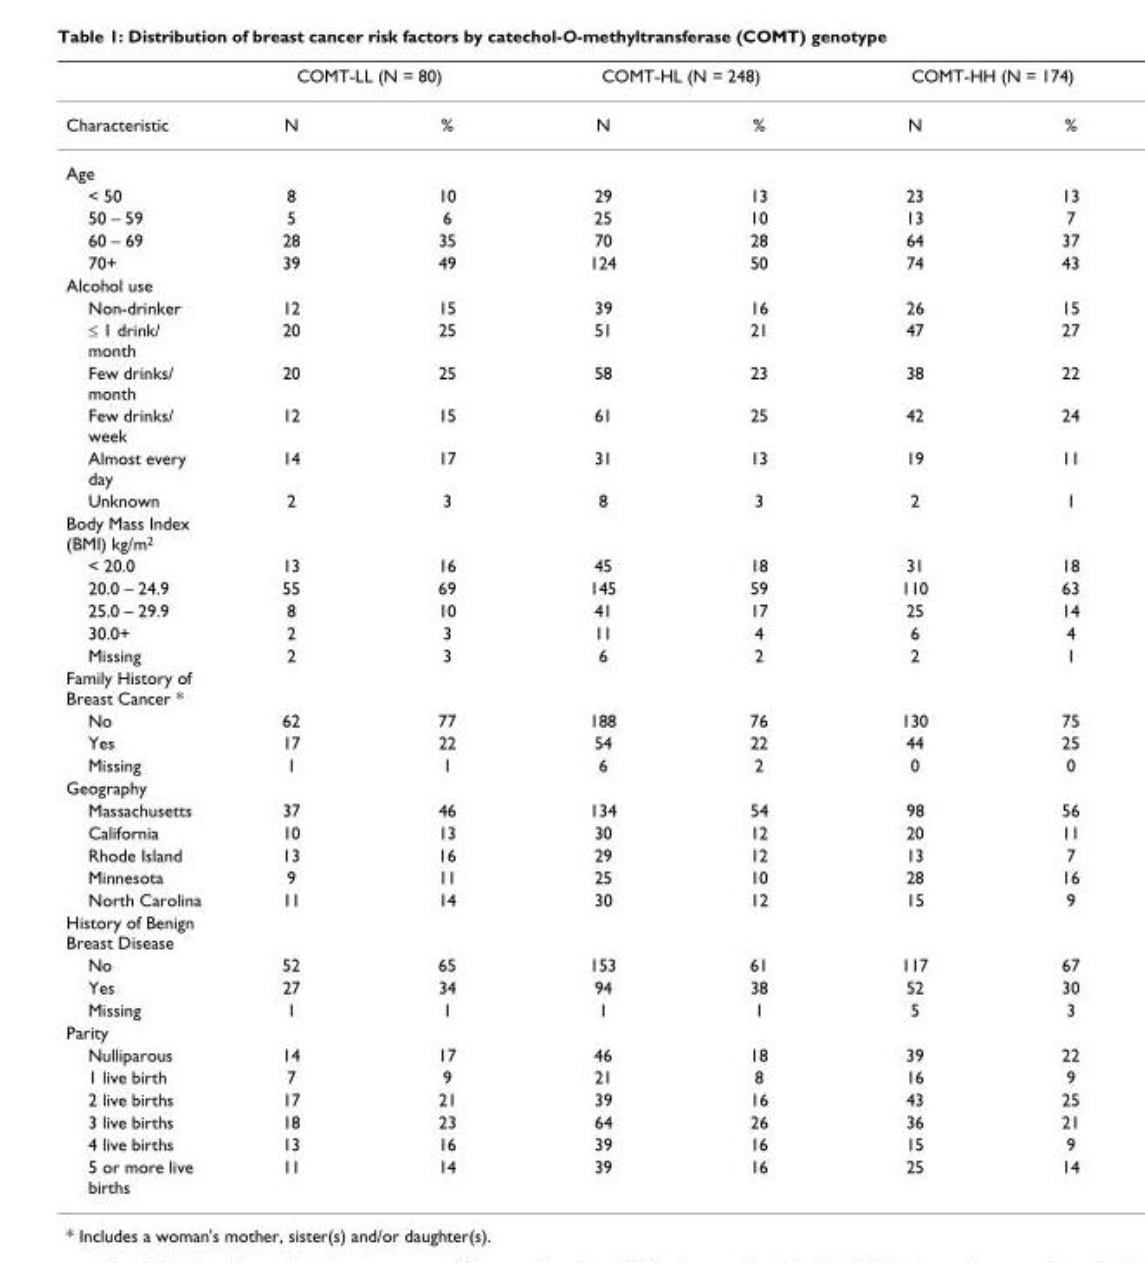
<table><thead><tr><td rowspan="2">Characteristic</td><td colspan="2">COMT-LL (N = 80)</td><td colspan="2">COMT-HL (N = 248)</td><td colspan="2">COMT-HH (N = 174)</td></tr><tr><td>N</td><td>%</td><td>N</td><td>%</td><td>N</td><td>%</td></tr></thead><tbody><tr><td colspan="7">Age</td></tr><tr><td>&lt; 50</td><td>8</td><td>10</td><td>29</td><td>13</td><td>23</td><td>13</td></tr><tr><td>50 – 59</td><td>5</td><td>6</td><td>25</td><td>10</td><td>13</td><td>7</td></tr><tr><td>60 – 69</td><td>28</td><td>35</td><td>70</td><td>28</td><td>64</td><td>37</td></tr><tr><td>70+</td><td>39</td><td>49</td><td>124</td><td>50</td><td>74</td><td>43</td></tr><tr><td colspan="7">Alcohol use</td></tr><tr><td>Non-drinker</td><td>12</td><td>15</td><td>39</td><td>16</td><td>26</td><td>15</td></tr><tr><td>≤ 1 drink/ month</td><td>20</td><td>25</td><td>51</td><td>21</td><td>47</td><td>27</td></tr><tr><td>Few drinks/ month</td><td>20</td><td>25</td><td>58</td><td>23</td><td>38</td><td>22</td></tr><tr><td>Few drinks/ week</td><td>12</td><td>15</td><td>61</td><td>25</td><td>42</td><td>24</td></tr><tr><td>Almost every day</td><td>14</td><td>17</td><td>31</td><td>13</td><td>19</td><td>11</td></tr><tr><td>Unknown</td><td>2</td><td>3</td><td>8</td><td>3</td><td>2</td><td>1</td></tr><tr><td colspan="7">Body Mass Index (BMI) kg/m<sup>2</sup></td></tr><tr><td>&lt; 20.0</td><td>13</td><td>16</td><td>45</td><td>18</td><td>31</td><td>18</td></tr><tr><td>20.0 – 24.9</td><td>55</td><td>69</td><td>145</td><td>59</td><td>110</td><td>63</td></tr><tr><td>25.0 – 29.9</td><td>8</td><td>10</td><td>41</td><td>17</td><td>25</td><td>14</td></tr><tr><td>30.0+</td><td>2</td><td>3</td><td>11</td><td>4</td><td>6</td><td>4</td></tr><tr><td>Missing</td><td>2</td><td>3</td><td>6</td><td>2</td><td>2</td><td>1</td></tr><tr><td colspan="7">Family History of Breast Cancer *</td></tr><tr><td>No</td><td>62</td><td>77</td><td>188</td><td>76</td><td>130</td><td>75</td></tr><tr><td>Yes</td><td>17</td><td>22</td><td>54</td><td>22</td><td>44</td><td>25</td></tr><tr><td>Missing</td><td>1</td><td>1</td><td>6</td><td>2</td><td>0</td><td>0</td></tr><tr><td colspan="7">Geography</td></tr><tr><td>Massachusetts</td><td>37</td><td>46</td><td>134</td><td>54</td><td>98</td><td>56</td></tr><tr><td>California</td><td>10</td><td>13</td><td>30</td><td>12</td><td>20</td><td>11</td></tr><tr><td>Rhode Island</td><td>13</td><td>16</td><td>29</td><td>12</td><td>13</td><td>7</td></tr><tr><td>Minnesota</td><td>9</td><td>11</td><td>25</td><td>10</td><td>28</td><td>16</td></tr><tr><td>North Carolina</td><td>11</td><td>14</td><td>30</td><td>12</td><td>15</td><td>9</td></tr><tr><td colspan="7">History of Benign Breast Disease</td></tr><tr><td>No</td><td>52</td><td>65</td><td>153</td><td>61</td><td>117</td><td>67</td></tr><tr><td>Yes</td><td>27</td><td>34</td><td>94</td><td>38</td><td>52</td><td>30</td></tr><tr><td>Missing</td><td>1</td><td>1</td><td>1</td><td>1</td><td>5</td><td>3</td></tr><tr><td colspan="7">Parity</td></tr><tr><td>Nulliparous</td><td>14</td><td>17</td><td>46</td><td>18</td><td>39</td><td>22</td></tr><tr><td>1 live birth</td><td>7</td><td>9</td><td>21</td><td>8</td><td>16</td><td>9</td></tr><tr><td>2 live births</td><td>17</td><td>21</td><td>39</td><td>16</td><td>43</td><td>25</td></tr><tr><td>3 live births</td><td>18</td><td>23</td><td>64</td><td>26</td><td>36</td><td>21</td></tr><tr><td>4 live births</td><td>13</td><td>16</td><td>39</td><td>16</td><td>15</td><td>9</td></tr><tr><td>5 or more live births</td><td>11</td><td>14</td><td>39</td><td>16</td><td>25</td><td>14</td></tr></tbody></table>